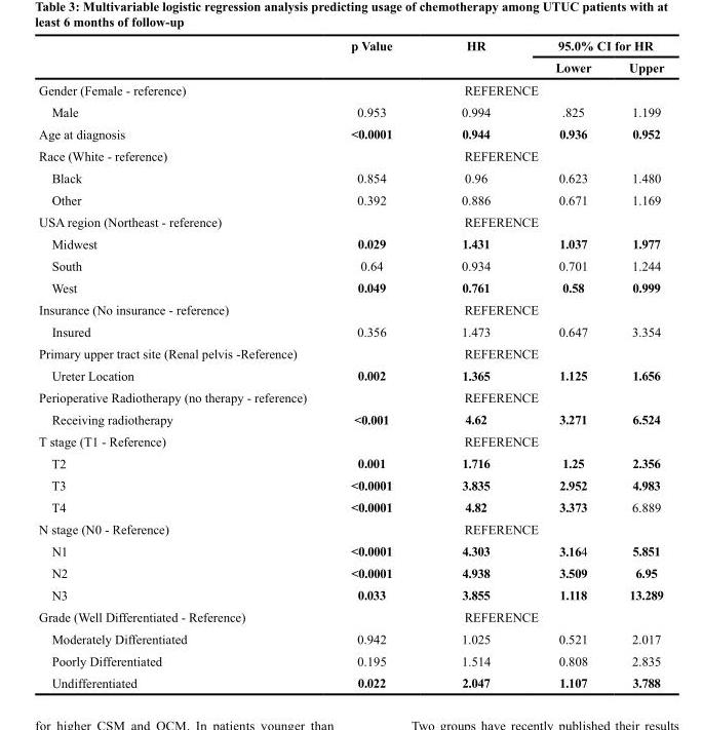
<table><thead><tr><td rowspan="2"></td><td rowspan="2">p Value</td><td rowspan="2">HR</td><td colspan="2">95.0% CI for HR</td></tr><tr><td>Lower</td><td>Upper</td></tr></thead><tbody><tr><td>Gender (Female - reference)</td><td colspan="4">REFERENCE</td></tr><tr><td>Male</td><td>0.953</td><td>0.994</td><td>.825</td><td>1.199</td></tr><tr><td>Age at diagnosis</td><td>&lt;0.0001</td><td>0.944</td><td>0.936</td><td>0.952</td></tr><tr><td>Race (White - reference)</td><td colspan="4">REFERENCE</td></tr><tr><td>Black</td><td>0.854</td><td>0.96</td><td>0.623</td><td>1.480</td></tr><tr><td>Other</td><td>0.392</td><td>0.886</td><td>0.671</td><td>1.169</td></tr><tr><td>USA region (Northeast - reference)</td><td colspan="4">REFERENCE</td></tr><tr><td>Midwest</td><td>0.029</td><td>1.431</td><td>1.037</td><td>1.977</td></tr><tr><td>South</td><td>0.64</td><td>0.934</td><td>0.701</td><td>1.244</td></tr><tr><td>West</td><td>0.049</td><td>0.761</td><td>0.58</td><td>0.999</td></tr><tr><td>Insurance (No insurance - reference)</td><td colspan="4">REFERENCE</td></tr><tr><td>Insured</td><td>0.356</td><td>1.473</td><td>0.647</td><td>3.354</td></tr><tr><td>Primary upper tract site (Renal pelvis -Reference)</td><td colspan="4">REFERENCE</td></tr><tr><td>Ureter Location</td><td>0.002</td><td>1.365</td><td>1.125</td><td>1.656</td></tr><tr><td>Perioperative Radiotherapy (no therapy - reference)</td><td colspan="4">REFERENCE</td></tr><tr><td>Receiving radiotherapy</td><td>&lt;0.001</td><td>4.62</td><td>3.271</td><td>6.524</td></tr><tr><td>T stage (T1 - Reference)</td><td colspan="4">REFERENCE</td></tr><tr><td>T2</td><td>0.001</td><td>1.716</td><td>1.25</td><td>2.356</td></tr><tr><td>T3</td><td>&lt;0.0001</td><td>3.835</td><td>2.952</td><td>4.983</td></tr><tr><td>T4</td><td>&lt;0.0001</td><td>4.82</td><td>3.373</td><td>6.889</td></tr><tr><td>N stage (N0 - Reference)</td><td colspan="4">REFERENCE</td></tr><tr><td>N1</td><td>&lt;0.0001</td><td>4.303</td><td>3.164</td><td>5.851</td></tr><tr><td>N2</td><td>&lt;0.0001</td><td>4.938</td><td>3.509</td><td>6.95</td></tr><tr><td>N3</td><td>0.033</td><td>3.855</td><td>1.118</td><td>13.289</td></tr><tr><td>Grade (Well Differentiated - Reference)</td><td colspan="4">REFERENCE</td></tr><tr><td>Moderately Differentiated</td><td>0.942</td><td>1.025</td><td>0.521</td><td>2.017</td></tr><tr><td>Poorly Differentiated</td><td>0.195</td><td>1.514</td><td>0.808</td><td>2.835</td></tr><tr><td>Undifferentiated</td><td>0.022</td><td>2.047</td><td>1.107</td><td>3.788</td></tr></tbody></table>